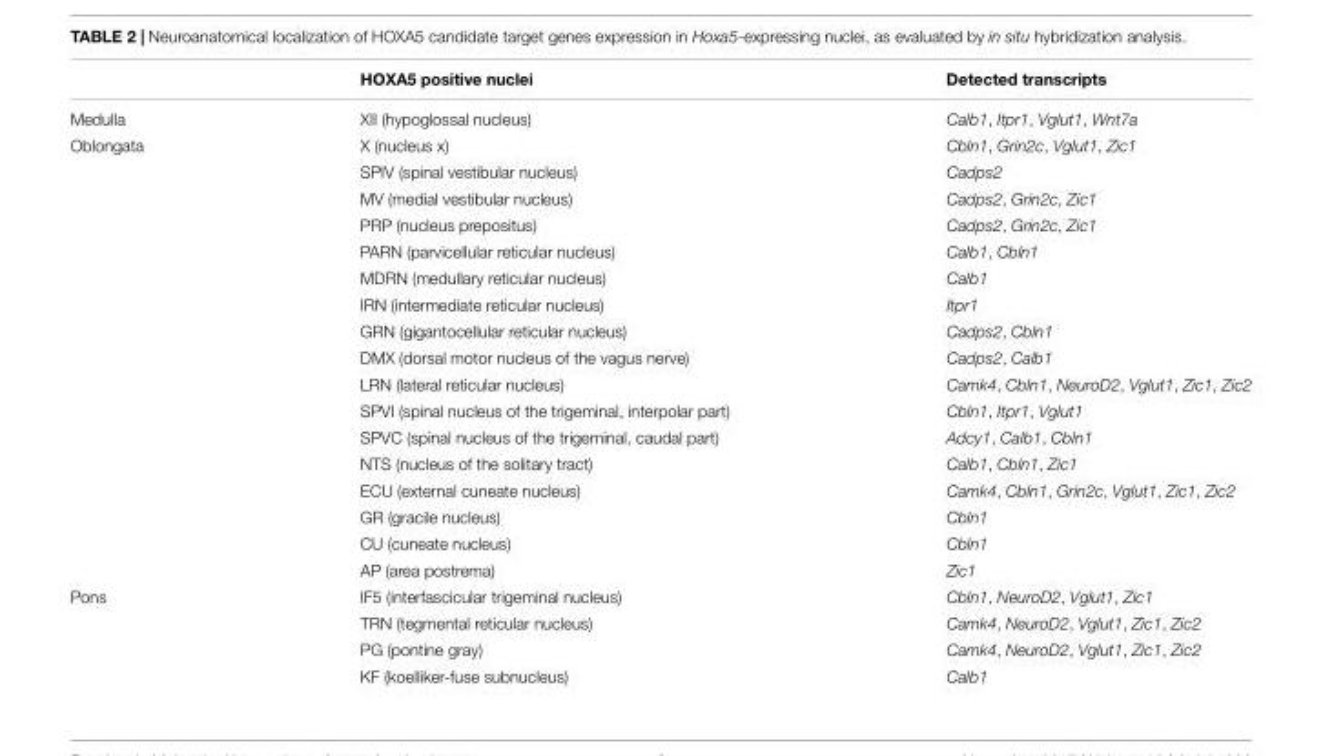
<table><thead><tr><td></td><td>HOXA5 positive nuclei</td><td>Detected transcripts</td></tr></thead><tbody><tr><td>Medulla</td><td>XII (hypoglossal nucleus)</td><td>Calb1, Itpr1, Vglut1, Wnt7a</td></tr><tr><td rowspan="17">Oblongata</td><td>X (nucleus x)</td><td>Cbln1, Grin2c, Vglut1, Zic1</td></tr><tr><td>SPIV (spinal vestibular nucleus)</td><td>Cadps2</td></tr><tr><td>MV (medial vestibular nucleus)</td><td>Cadps2, Grin2c, Zic1</td></tr><tr><td>PRP (nucleus prepositus)</td><td>Cadps2, Grin2c, Zic1</td></tr><tr><td>PARN (parvicellular reticular nucleus)</td><td>Calb1, Cbln1</td></tr><tr><td>MDRN (medullary reticular nucleus)</td><td>Calb1</td></tr><tr><td>IRN (intermediate reticular nucleus)</td><td>Itpr1</td></tr><tr><td>GRN (gigantocellular reticular nucleus)</td><td>Cadps2, Cbln1</td></tr><tr><td>DMX (dorsal motor nucleus of the vagus nerve)</td><td>Cadps2, Calb1</td></tr><tr><td>LRN (lateral reticular nucleus)</td><td>Camk4, Cbln1, NeuroD2, Vglut1, Zic1, Zic2</td></tr><tr><td>SPVI (spinal nucleus of the trigeminal, interpolar part)</td><td>Cbln1, Itpr1, Vglut1</td></tr><tr><td>SPVC (spinal nucleus of the trigeminal, caudal part)</td><td>Adcy1, Calb1, Cbln1</td></tr><tr><td>NTS (nucleus of the solitary tract)</td><td>Calb1, Cbln1, Zic1</td></tr><tr><td>ECU (external cuneate nucleus)</td><td>Camk4, Cbln1, Grin2c, Vglut1, Zic1, Zic2</td></tr><tr><td>GR (gracile nucleus)</td><td>Cbln1</td></tr><tr><td>CU (cuneate nucleus)</td><td>Cbln1</td></tr><tr><td>AP (area postrema)</td><td>Zic1</td></tr><tr><td rowspan="4">Pons</td><td>IF5 (interfascicular trigeminal nucleus)</td><td>Cbln1, NeuroD2, Vglut1, Zic1</td></tr><tr><td>TRN (tegmental reticular nucleus)</td><td>Camk4, NeuroD2, Vglut1, Zic1, Zic2</td></tr><tr><td>PG (pontine gray)</td><td>Camk4, NeuroD2, Vglut1, Zic1, Zic2</td></tr><tr><td>KF (koelliker-fuse subnucleus)</td><td>Calb1</td></tr></tbody></table>